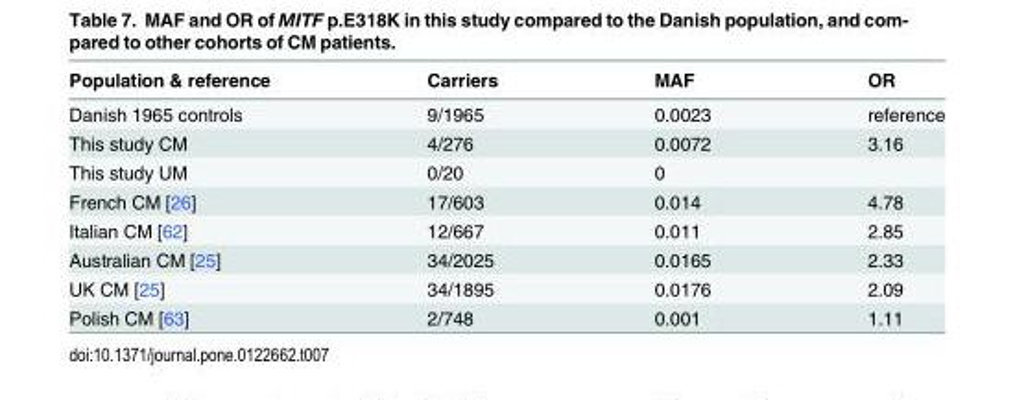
<table><thead><tr><td>Population &amp; reference</td><td>Carriers</td><td>MAF</td><td>OR</td></tr></thead><tbody><tr><td>Danish 1965 controls</td><td>9/1965</td><td>0.0023</td><td>reference</td></tr><tr><td>This study CM</td><td>4/276</td><td>0.0072</td><td>3.16</td></tr><tr><td>This study UM</td><td>0/20</td><td>0</td><td></td></tr><tr><td>French CM [26]</td><td>17/603</td><td>0.014</td><td>4.78</td></tr><tr><td>Italian CM [62]</td><td>12/667</td><td>0.011</td><td>2.85</td></tr><tr><td>Australian CM [25]</td><td>34/2025</td><td>0.0165</td><td>2.33</td></tr><tr><td>UK CM [25]</td><td>34/1895</td><td>0.0176</td><td>2.09</td></tr><tr><td>Polish CM [63]</td><td>2/748</td><td>0.001</td><td>1.11</td></tr></tbody></table>